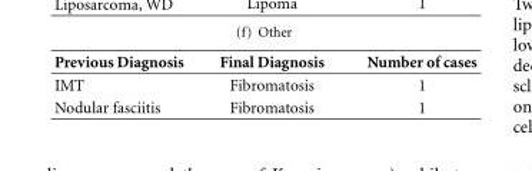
<table><thead><tr><td>Previous Diagnosis</td><td>Final Diagnosis</td><td>Number of cases</td></tr></thead><tbody><tr><td>IMT</td><td>Fibromatosis</td><td>1</td></tr><tr><td>Nodular fasciitis</td><td>Fibromatosis</td><td>1</td></tr></tbody></table>